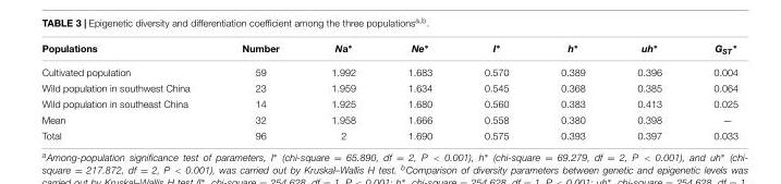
<table><thead><tr><td>Populations</td><td>Number</td><td>Na∗</td><td>Ne∗</td><td>I∗</td><td>h∗</td><td>uh∗</td><td>G<sub>ST</sub> ∗</td></tr></thead><tbody><tr><td>Cultivated population</td><td>59</td><td>1.992</td><td>1.683</td><td>0.570</td><td>0.389</td><td>0.396</td><td>0.004</td></tr><tr><td>Wild population in southwest China</td><td>23</td><td>1.959</td><td>1.634</td><td>0.545</td><td>0.368</td><td>0.385</td><td>0.064</td></tr><tr><td>Wild population in southeast China</td><td>14</td><td>1.925</td><td>1.680</td><td>0.560</td><td>0.383</td><td>0.413</td><td>0.025</td></tr><tr><td>Mean</td><td>32</td><td>1.958</td><td>1.666</td><td>0.558</td><td>0.380</td><td>0.398</td><td>—</td></tr><tr><td>Total</td><td>96</td><td>2</td><td>1.690</td><td>0.575</td><td>0.393</td><td>0.397</td><td>0.033</td></tr></tbody></table>